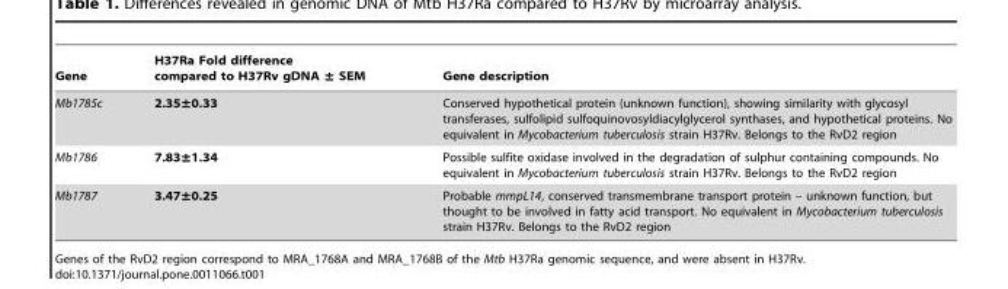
<table><thead><tr><td>Gene</td><td>H37Ra Fold difference compared to H37Rv gDNA ± SEM</td><td>Gene description</td></tr></thead><tbody><tr><td>Mb1785c</td><td>2.35±0.33</td><td>Conserved hypothetical protein (unknown function), showing similarity with glycosyl transferases, sulfolipid sulfoquinovosyldiacylglycerol synthases, and hypothetical proteins. No equivalent in Mycobacterium tuberculosis strain H37Rv. Belongs to the RvD2 region</td></tr><tr><td>Mb1786</td><td>7.83±1.34</td><td>Possible sulfite oxidase involved in the degradation of sulphur containing compounds. No equivalent in Mycobacterium tuberculosis strain H37Rv. Belongs to the RvD2 region</td></tr><tr><td>Mb1787</td><td>3.47±0.25</td><td>Probable mmpL14, conserved transmembrane transport protein – unknown function, but thought to be involved in fatty acid transport. No equivalent in Mycobacterium tuberculosis strain H37Rv. Belongs to the RvD2 region</td></tr></tbody></table>